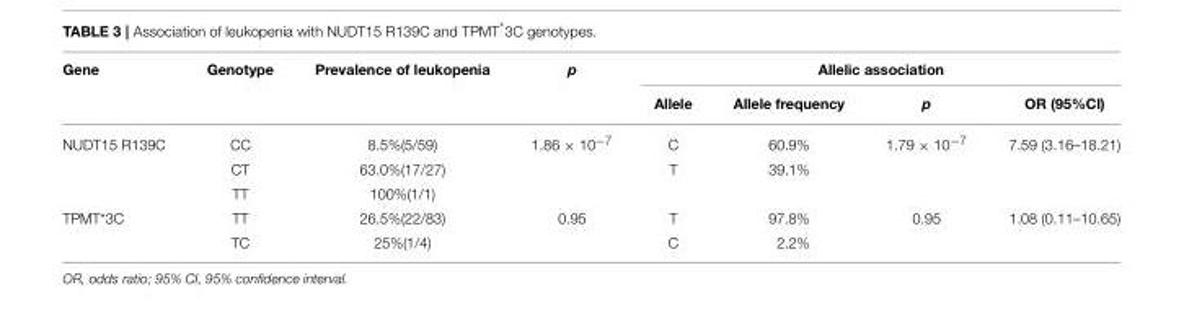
<table><thead><tr><td rowspan="2">Gene</td><td rowspan="2">Genotype</td><td rowspan="2">Prevalence of leukopenia</td><td rowspan="2">p</td><td colspan="4">Allelic association</td></tr><tr><td>Allele</td><td>Allele frequency</td><td>p</td><td>OR (95%Cl)</td></tr></thead><tbody><tr><td rowspan="3">NUDT15 R139C</td><td>CC</td><td>8.5%(5/59)</td><td>1.86 × 10<sup>−7</sup></td><td>C</td><td>60.9%</td><td>1.79 × 10<sup>−7</sup></td><td>7.59 (3.16–18.21)</td></tr><tr><td>CT</td><td>63.0%(17/27)</td><td></td><td>T</td><td>39.1%</td><td></td><td></td></tr><tr><td>TT</td><td>100%(1/1)</td><td></td><td></td><td></td><td></td><td></td></tr><tr><td rowspan="2">TPMT*3C</td><td>TT</td><td>26.5%(22/83)</td><td>0.95</td><td>T</td><td>97.8%</td><td>0.95</td><td>1.08 (0.11–10.65)</td></tr><tr><td>TC</td><td>25%(1/4)</td><td></td><td>C</td><td>2.2%</td><td></td><td></td></tr></tbody></table>